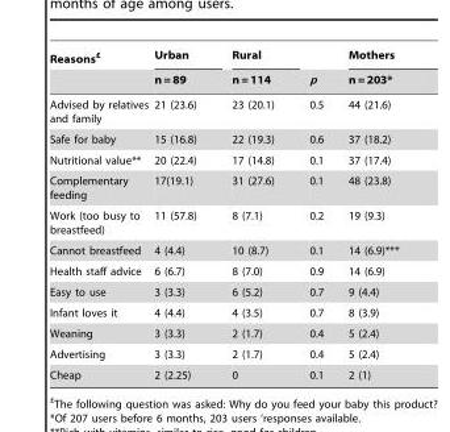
<table><thead><tr><td rowspan="2">Reasons£</td><td rowspan="2">Urban n = 89</td><td rowspan="2">Rural n = 114</td><td rowspan="2">p</td><td rowspan="2">Mothers n = 203*</td></tr><tr></tr></thead><tbody><tr><td>Advised by relatives and family</td><td>21 (23.6)</td><td>23 (20.1)</td><td>0.5</td><td>44 (21.6)</td></tr><tr><td>Safe for baby</td><td>15 (16.8)</td><td>22 (19.3)</td><td>0.6</td><td>37 (18.2)</td></tr><tr><td>Nutritional value**</td><td>20 (22.4)</td><td>17 (14.8)</td><td>0.1</td><td>37 (17.4)</td></tr><tr><td>Complementary feeding</td><td>17(19.1)</td><td>31 (27.6)</td><td>0.1</td><td>48 (23.8)</td></tr><tr><td>Work (too busy to breastfeed)</td><td>11 (57.8)</td><td>8 (7.1)</td><td>0.2</td><td>19 (9.3)</td></tr><tr><td>Cannot breastfeed</td><td>4 (4.4)</td><td>10 (8.7)</td><td>0.1</td><td>14 (6.9)***</td></tr><tr><td>Health staff advice</td><td>6 (6.7)</td><td>8 (7.0)</td><td>0.9</td><td>14 (6.9)</td></tr><tr><td>Easy to use</td><td>3 (3.3)</td><td>6 (5.2)</td><td>0.7</td><td>9 (4.4)</td></tr><tr><td>Infant loves it</td><td>4 (4.4)</td><td>4 (3.5)</td><td>0.7</td><td>8 (3.9)</td></tr><tr><td>Weaning</td><td>3 (3.3)</td><td>2 (1.7)</td><td>0.4</td><td>5 (2.4)</td></tr><tr><td>Advertising</td><td>3 (3.3)</td><td>2 (1.7)</td><td>0.4</td><td>5 (2.4)</td></tr><tr><td>Cheap</td><td>2 (2.25)</td><td>0</td><td>0.1</td><td>2 (1)</td></tr></tbody></table>